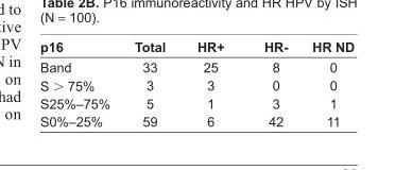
<table><thead><tr><td>p16</td><td>Total</td><td>HR+</td><td>HR-</td><td>HR ND</td></tr></thead><tbody><tr><td>Band</td><td>33</td><td>25</td><td>8</td><td>0</td></tr><tr><td>S &gt; 75%</td><td>3</td><td>3</td><td>0</td><td>0</td></tr><tr><td>S25%–75%</td><td>5</td><td>1</td><td>3</td><td>1</td></tr><tr><td>S0%–25%</td><td>59</td><td>6</td><td>42</td><td>11</td></tr></tbody></table>